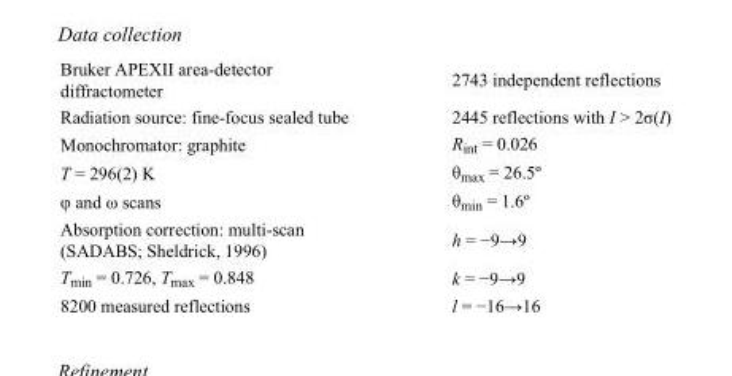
<table><tbody><tr><td>Bruker APEXII area-detector diffractometer</td><td>2743 independent reflections</td></tr><tr><td>Radiation source: fine-focus sealed tube</td><td>2445 reflections with I &gt; 2σ(I)</td></tr><tr><td>Monochromator: graphite</td><td>R<sub>int</sub> = 0.026</td></tr><tr><td>T = 296(2) K</td><td>θ<sub>max</sub> = 26.5º</td></tr><tr><td>φ and ω scans</td><td>θ<sub>min</sub> = 1.6º</td></tr><tr><td>Absorption correction: multi-scan (SADABS; Sheldrick, 1996)</td><td>h = −9→9</td></tr><tr><td>T<sub>min</sub> = 0.726, T<sub>max</sub> = 0.848</td><td>k = −9→9</td></tr><tr><td>8200 measured reflections</td><td>l = −16→16</td></tr></tbody></table>